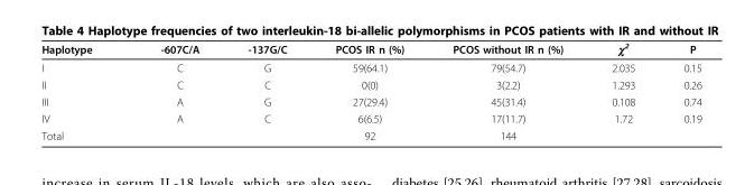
<table><thead><tr><td>Haplotype</td><td>-607C/A</td><td>-137G/C</td><td>PCOS IR n (%)</td><td>PCOS without IR n (%)</td><td>χ<sup>2</sup></td><td>P</td></tr></thead><tbody><tr><td>I</td><td>C</td><td>G</td><td>59(64.1)</td><td>79(54.7)</td><td>2.035</td><td>0.15</td></tr><tr><td>II</td><td>C</td><td>C</td><td>0(0)</td><td>3(2.2)</td><td>1.293</td><td>0.26</td></tr><tr><td>III</td><td>A</td><td>G</td><td>27(29.4)</td><td>45(31.4)</td><td>0.108</td><td>0.74</td></tr><tr><td>IV</td><td>A</td><td>C</td><td>6(6.5)</td><td>17(11.7)</td><td>1.72</td><td>0.19</td></tr><tr><td>Total</td><td></td><td></td><td>92</td><td>144</td><td></td><td></td></tr></tbody></table>